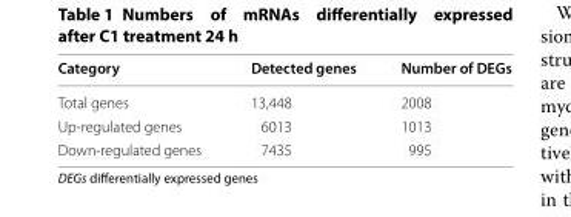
<table><thead><tr><td>Category</td><td>Detected genes</td><td>Number of DEGs</td></tr></thead><tbody><tr><td>Total genes</td><td>13,448</td><td>2008</td></tr><tr><td>Up-regulated genes</td><td>6013</td><td>1013</td></tr><tr><td>Down-regulated genes</td><td>7435</td><td>995</td></tr></tbody></table>